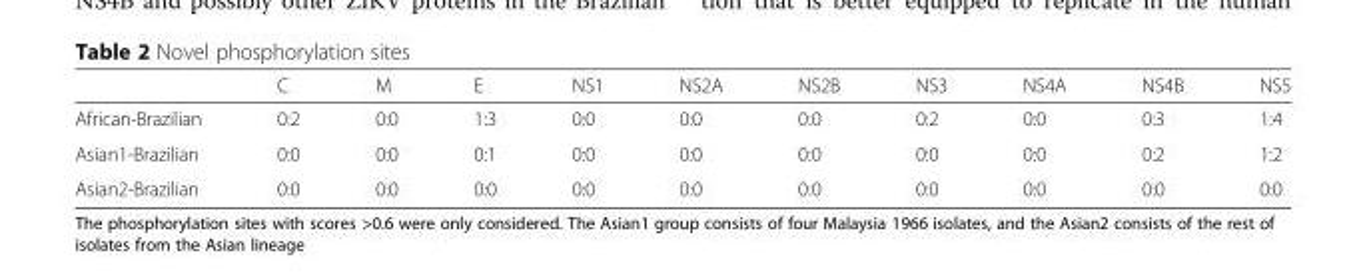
<table><thead><tr><td></td><td>C</td><td>M</td><td>E</td><td>NS1</td><td>NS2A</td><td>NS2B</td><td>NS3</td><td>NS4A</td><td>NS4B</td><td>NS5</td></tr></thead><tbody><tr><td>African-Brazilian</td><td>0:2</td><td>0:0</td><td>1:3</td><td>0:0</td><td>0:0</td><td>0:0</td><td>0:2</td><td>0:0</td><td>0:3</td><td>1:4</td></tr><tr><td>Asian1-Brazilian</td><td>0:0</td><td>0:0</td><td>0:1</td><td>0:0</td><td>0:0</td><td>0:0</td><td>0:0</td><td>0:0</td><td>0:2</td><td>1:2</td></tr><tr><td>Asian2-Brazilian</td><td>0:0</td><td>0:0</td><td>0:0</td><td>0:0</td><td>0:0</td><td>0:0</td><td>0:0</td><td>0:0</td><td>0:0</td><td>0:0</td></tr></tbody></table>